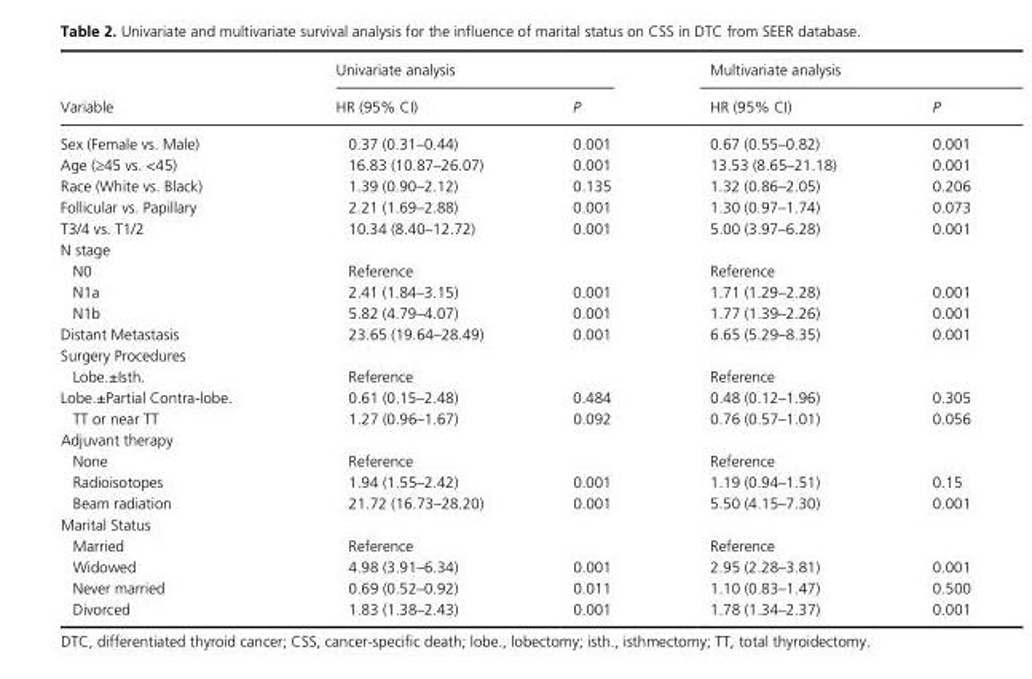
<table><thead><tr><td rowspan="2">Variable</td><td colspan="2">Univariate analysis</td><td colspan="2">Multivariate analysis</td></tr><tr><td>HR (95% CI)</td><td>P</td><td>HR (95% CI)</td><td>P</td></tr></thead><tbody><tr><td>Sex (Female vs. Male)</td><td>0.37 (0.31–0.44)</td><td>0.001</td><td>0.67 (0.55–0.82)</td><td>0.001</td></tr><tr><td>Age (≥45 vs. &lt;45)</td><td>16.83 (10.87–26.07)</td><td>0.001</td><td>13.53 (8.65–21.18)</td><td>0.001</td></tr><tr><td>Race (White vs. Black)</td><td>1.39 (0.90–2.12)</td><td>0.135</td><td>1.32 (0.86–2.05)</td><td>0.206</td></tr><tr><td>Follicular vs. Papillary</td><td>2.21 (1.69–2.88)</td><td>0.001</td><td>1.30 (0.97–1.74)</td><td>0.073</td></tr><tr><td>T3/4 vs. T1/2</td><td>10.34 (8.40–12.72)</td><td>0.001</td><td>5.00 (3.97–6.28)</td><td>0.001</td></tr><tr><td colspan="5">N stage</td></tr><tr><td>N0</td><td>Reference</td><td></td><td>Reference</td><td></td></tr><tr><td>N1a</td><td>2.41 (1.84–3.15)</td><td>0.001</td><td>1.71 (1.29–2.28)</td><td>0.001</td></tr><tr><td>N1b</td><td>5.82 (4.79–4.07)</td><td>0.001</td><td>1.77 (1.39–2.26)</td><td>0.001</td></tr><tr><td>Distant Metastasis</td><td>23.65 (19.64–28.49)</td><td>0.001</td><td>6.65 (5.29–8.35)</td><td>0.001</td></tr><tr><td colspan="5">Surgery Procedures</td></tr><tr><td>Lobe.±Isth.</td><td>Reference</td><td></td><td>Reference</td><td></td></tr><tr><td>Lobe.±Partial Contra- lobe.</td><td>0.61 (0.15–2.48)</td><td>0.484</td><td>0.48 (0.12–1.96)</td><td>0.305</td></tr><tr><td>TT or near TT</td><td>1.27 (0.96–1.67)</td><td>0.092</td><td>0.76 (0.57–1.01)</td><td>0.056</td></tr><tr><td colspan="5">Adjuvant therapy</td></tr><tr><td>None</td><td>Reference</td><td></td><td>Reference</td><td></td></tr><tr><td>Radioisotopes</td><td>1.94 (1.55–2.42)</td><td>0.001</td><td>1.19 (0.94–1.51)</td><td>0.15</td></tr><tr><td>Beam radiation</td><td>21.72 (16.73–28.20)</td><td>0.001</td><td>5.50 (4.15–7.30)</td><td>0.001</td></tr><tr><td colspan="5">Marital Status</td></tr><tr><td>Married</td><td>Reference</td><td></td><td>Reference</td><td></td></tr><tr><td>Widowed</td><td>4.98 (3.91–6.34)</td><td>0.001</td><td>2.95 (2.28–3.81)</td><td>0.001</td></tr><tr><td>Never married</td><td>0.69 (0.52–0.92)</td><td>0.011</td><td>1.10 (0.83–1.47)</td><td>0.500</td></tr><tr><td>Divorced</td><td>1.83 (1.38–2.43)</td><td>0.001</td><td>1.78 (1.34–2.37)</td><td>0.001</td></tr></tbody></table>